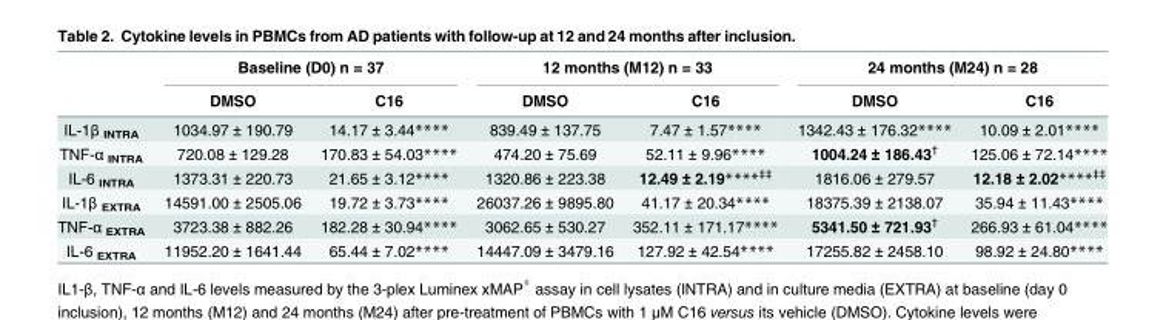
<table><thead><tr><td rowspan="2"></td><td colspan="2">Baseline (D0) n = 37</td><td colspan="2">12 months (M12) n = 33</td><td colspan="2">24 months (M24) n = 28</td></tr><tr><td>DMSO</td><td>C16</td><td>DMSO</td><td>C16</td><td>DMSO</td><td>C16</td></tr></thead><tbody><tr><td>IL-1β <sub>INTRA</sub></td><td>1034.97 ± 190.79</td><td>14.17 ± 3.44****</td><td>839.49 ± 137.75</td><td>7.47 ± 1.57****</td><td>1342.43 ± 176.32****</td><td>10.09 ± 2.01****</td></tr><tr><td>TNF-α <sub>INTRA</sub></td><td>720.08 ± 129.28</td><td>170.83 ± 54.03****</td><td>474.20 ± 75.69</td><td>52.11 ± 9.96****</td><td>1004.24 ± 186.43<sup>†</sup></td><td>125.06 ± 72.14****</td></tr><tr><td>IL-6 <sub>INTRA</sub></td><td>1373.31 ± 220.73</td><td>21.65 ± 3.12****</td><td>1320.86 ± 223.38</td><td>12.49 ± 2.19****<sup>‡‡</sup></td><td>1816.06 ± 279.57</td><td>12.18 ± 2.02****<sup>‡‡</sup></td></tr><tr><td>IL-1β <sub>EXTRA</sub></td><td>14591.00 ± 2505.06</td><td>19.72 ± 3.73****</td><td>26037.26 ± 9895.80</td><td>41.17 ± 20.34****</td><td>18375.39 ± 2138.07</td><td>35.94 ± 11.43****</td></tr><tr><td>TNF-α <sub>EXTRA</sub></td><td>3723.38 ± 882.26</td><td>182.28 ± 30.94****</td><td>3062.65 ± 530.27</td><td>352.11 ± 171.17****</td><td>5341.50 ± 721.93<sup>†</sup></td><td>266.93 ± 61.04****</td></tr><tr><td>IL-6 <sub>EXTRA</sub></td><td>11952.20 ± 1641.44</td><td>65.44 ± 7.02****</td><td>14447.09 ± 3479.16</td><td>127.92 ± 42.54****</td><td>17255.82 ± 2458.10</td><td>98.92 ± 24.80****</td></tr></tbody></table>